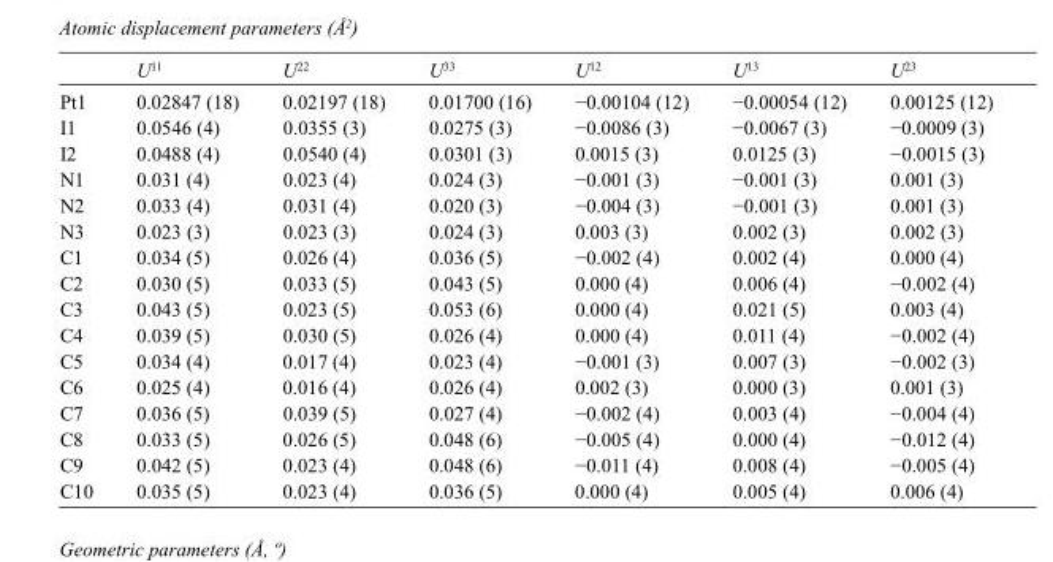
<table><thead><tr><td></td><td>U<sup>11</sup></td><td>U<sup>22</sup></td><td>U<sup>33</sup></td><td>U<sup>12</sup></td><td>U<sup>13</sup></td><td>U<sup>23</sup></td></tr></thead><tbody><tr><td>Pt1</td><td>0.02847 (18)</td><td>0.02197 (18)</td><td>0.01700 (16)</td><td>−0.00104 (12)</td><td>−0.00054 (12)</td><td>0.00125 (12)</td></tr><tr><td>I1</td><td>0.0546 (4)</td><td>0.0355 (3)</td><td>0.0275 (3)</td><td>−0.0086 (3)</td><td>−0.0067 (3)</td><td>−0.0009 (3)</td></tr><tr><td>I2</td><td>0.0488 (4)</td><td>0.0540 (4)</td><td>0.0301 (3)</td><td>0.0015 (3)</td><td>0.0125 (3)</td><td>−0.0015 (3)</td></tr><tr><td>N1</td><td>0.031 (4)</td><td>0.023 (4)</td><td>0.024 (3)</td><td>−0.001 (3)</td><td>−0.001 (3)</td><td>0.001 (3)</td></tr><tr><td>N2</td><td>0.033 (4)</td><td>0.031 (4)</td><td>0.020 (3)</td><td>−0.004 (3)</td><td>−0.001 (3)</td><td>0.001 (3)</td></tr><tr><td>N3</td><td>0.023 (3)</td><td>0.023 (3)</td><td>0.024 (3)</td><td>0.003 (3)</td><td>0.002 (3)</td><td>0.002 (3)</td></tr><tr><td>C1</td><td>0.034 (5)</td><td>0.026 (4)</td><td>0.036 (5)</td><td>−0.002 (4)</td><td>0.002 (4)</td><td>0.000 (4)</td></tr><tr><td>C2</td><td>0.030 (5)</td><td>0.033 (5)</td><td>0.043 (5)</td><td>0.000 (4)</td><td>0.006 (4)</td><td>−0.002 (4)</td></tr><tr><td>C3</td><td>0.043 (5)</td><td>0.023 (5)</td><td>0.053 (6)</td><td>0.000 (4)</td><td>0.021 (5)</td><td>0.003 (4)</td></tr><tr><td>C4</td><td>0.039 (5)</td><td>0.030 (5)</td><td>0.026 (4)</td><td>0.000 (4)</td><td>0.011 (4)</td><td>−0.002 (4)</td></tr><tr><td>C5</td><td>0.034 (4)</td><td>0.017 (4)</td><td>0.023 (4)</td><td>−0.001 (3)</td><td>0.007 (3)</td><td>−0.002 (3)</td></tr><tr><td>C6</td><td>0.025 (4)</td><td>0.016 (4)</td><td>0.026 (4)</td><td>0.002 (3)</td><td>0.000 (3)</td><td>0.001 (3)</td></tr><tr><td>C7</td><td>0.036 (5)</td><td>0.039 (5)</td><td>0.027 (4)</td><td>−0.002 (4)</td><td>0.003 (4)</td><td>−0.004 (4)</td></tr><tr><td>C8</td><td>0.033 (5)</td><td>0.026 (5)</td><td>0.048 (6)</td><td>−0.005 (4)</td><td>0.000 (4)</td><td>−0.012 (4)</td></tr><tr><td>C9</td><td>0.042 (5)</td><td>0.023 (4)</td><td>0.048 (6)</td><td>−0.011 (4)</td><td>0.008 (4)</td><td>−0.005 (4)</td></tr><tr><td>C10</td><td>0.035 (5)</td><td>0.023 (4)</td><td>0.036 (5)</td><td>0.000 (4)</td><td>0.005 (4)</td><td>0.006 (4)</td></tr></tbody></table>